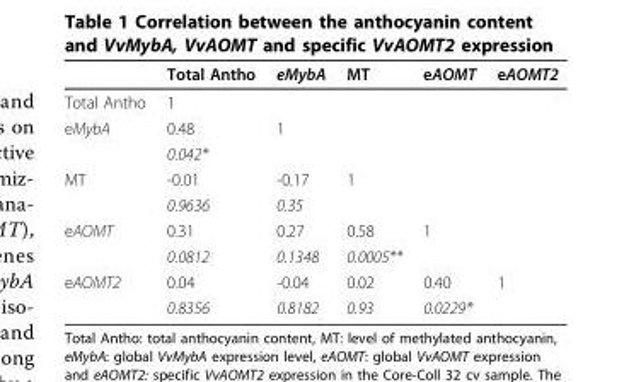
<table><thead><tr><td></td><td>Total Antho</td><td>eMybA</td><td>MT</td><td>eAOMT</td><td>eAOMT2</td></tr></thead><tbody><tr><td>Total Antho</td><td>1</td><td></td><td></td><td></td><td></td></tr><tr><td rowspan="2">eMybA</td><td>0.48</td><td>1</td><td></td><td></td><td></td></tr><tr><td>0.042*</td><td></td><td></td><td></td><td></td></tr><tr><td rowspan="2">MT</td><td>-0.01</td><td>-0.17</td><td>1</td><td></td><td></td></tr><tr><td>0.9636</td><td>0.35</td><td></td><td></td><td></td></tr><tr><td rowspan="2">eAOMT</td><td>0.31</td><td>0.27</td><td>0.58</td><td>1</td><td></td></tr><tr><td>0.0812</td><td>0.1348</td><td>0.0005**</td><td></td><td></td></tr><tr><td rowspan="2">eAOMT2</td><td>0.04</td><td>-0.04</td><td>0.02</td><td>0.40</td><td>1</td></tr><tr><td>0.8356</td><td>0.8182</td><td>0.93</td><td>0.0229*</td><td></td></tr></tbody></table>